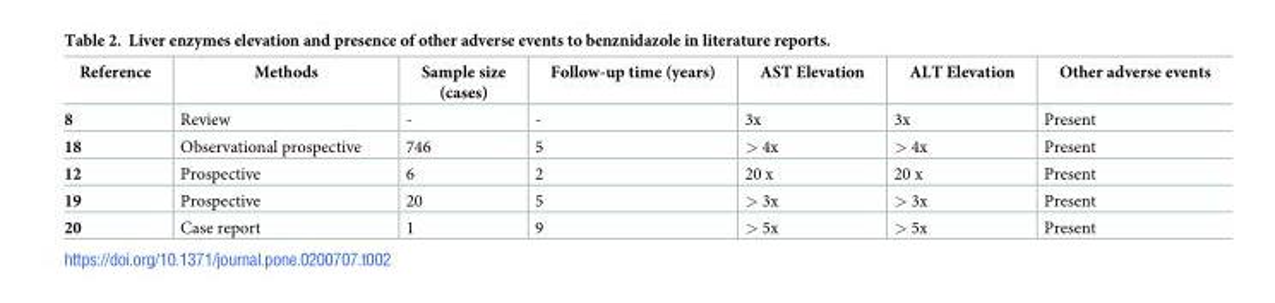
<table><thead><tr><td>Reference</td><td>Methods</td><td>Sample size (cases)</td><td>Follow-up time (years)</td><td>AST Elevation</td><td>ALT Elevation</td><td>Other adverse events</td></tr></thead><tbody><tr><td>8</td><td>Review</td><td>-</td><td>-</td><td>3x</td><td>3x</td><td>Present</td></tr><tr><td>18</td><td>Observational prospective</td><td>746</td><td>5</td><td>&gt; 4x</td><td>&gt; 4x</td><td>Present</td></tr><tr><td>12</td><td>Prospective</td><td>6</td><td>2</td><td>20 x</td><td>20 x</td><td>Present</td></tr><tr><td>19</td><td>Prospective</td><td>20</td><td>5</td><td>&gt; 3x</td><td>&gt; 3x</td><td>Present</td></tr><tr><td>20</td><td>Case report</td><td>1</td><td>9</td><td>&gt; 5x</td><td>&gt; 5x</td><td>Present</td></tr></tbody></table>